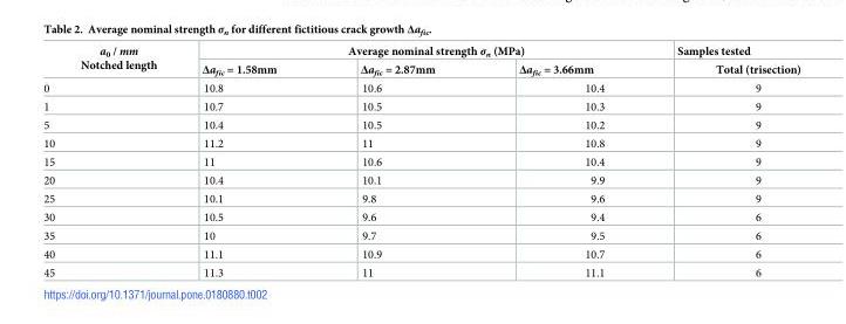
<table><thead><tr><td rowspan="2">a<sub>0</sub> / mm Notched length</td><td colspan="3">Average nominal strength σ<sub>n</sub> (MPa)</td><td rowspan="2">Samples tested Total (trisection)</td></tr><tr><td>Δa<sub>fic</sub> = 1.58mm</td><td>Δa<sub>fic</sub> = 2.87mm</td><td>Δa<sub>fic</sub> = 3.66mm</td></tr></thead><tbody><tr><td>0</td><td>10.8</td><td>10.6</td><td>10.4</td><td>9</td></tr><tr><td>1</td><td>10.7</td><td>10.5</td><td>10.3</td><td>9</td></tr><tr><td>5</td><td>10.4</td><td>10.5</td><td>10.2</td><td>9</td></tr><tr><td>10</td><td>11.2</td><td>11</td><td>10.8</td><td>9</td></tr><tr><td>15</td><td>11</td><td>10.6</td><td>10.4</td><td>9</td></tr><tr><td>20</td><td>10.4</td><td>10.1</td><td>9.9</td><td>9</td></tr><tr><td>25</td><td>10.1</td><td>9.8</td><td>9.6</td><td>9</td></tr><tr><td>30</td><td>10.5</td><td>9.6</td><td>9.4</td><td>6</td></tr><tr><td>35</td><td>10</td><td>9.7</td><td>9.5</td><td>6</td></tr><tr><td>40</td><td>11.1</td><td>10.9</td><td>10.7</td><td>6</td></tr><tr><td>45</td><td>11.3</td><td>11</td><td>11.1</td><td>6</td></tr></tbody></table>